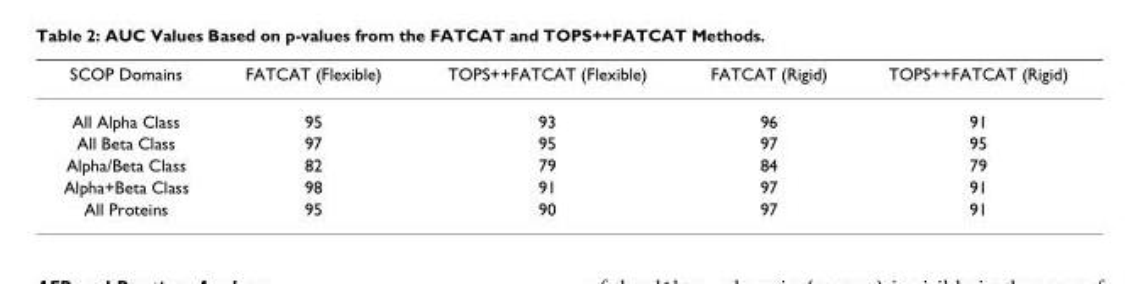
<table><thead><tr><td>SCOP Domains</td><td>FATCAT (Flexible)</td><td>TOPS++FATCAT (Flexible)</td><td>FATCAT (Rigid)</td><td>TOPS++FATCAT (Rigid)</td></tr></thead><tbody><tr><td>All Alpha Class</td><td>95</td><td>93</td><td>96</td><td>91</td></tr><tr><td>All Beta Class</td><td>97</td><td>95</td><td>97</td><td>95</td></tr><tr><td>Alpha/Beta Class</td><td>82</td><td>79</td><td>84</td><td>79</td></tr><tr><td>Alpha+Beta Class</td><td>98</td><td>91</td><td>97</td><td>91</td></tr><tr><td>All Proteins</td><td>95</td><td>90</td><td>97</td><td>91</td></tr></tbody></table>